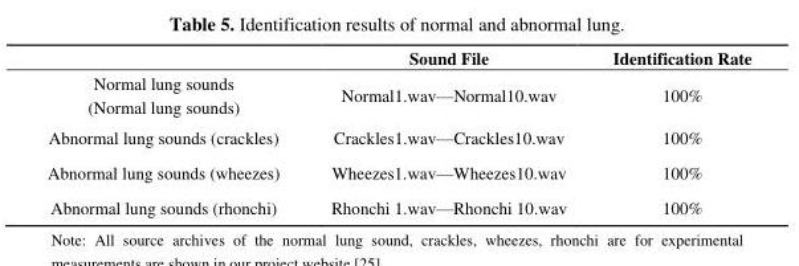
<table><thead><tr><td></td><td>Sound File</td><td>Identification Rate</td></tr></thead><tbody><tr><td>Normal lung sounds (Normal lung sounds)</td><td>Normal1.wav—Normal10.wav</td><td>100%</td></tr><tr><td>Abnormal lung sounds (crackles)</td><td>Crackles1.wav—Crackles10.wav</td><td>100%</td></tr><tr><td>Abnormal lung sounds (wheezes)</td><td>Wheezes1.wav—Wheezes10.wav</td><td>100%</td></tr><tr><td>Abnormal lung sounds (rhonchi)</td><td>Rhonchi 1.wav—Rhonchi 10.wav</td><td>100%</td></tr></tbody></table>